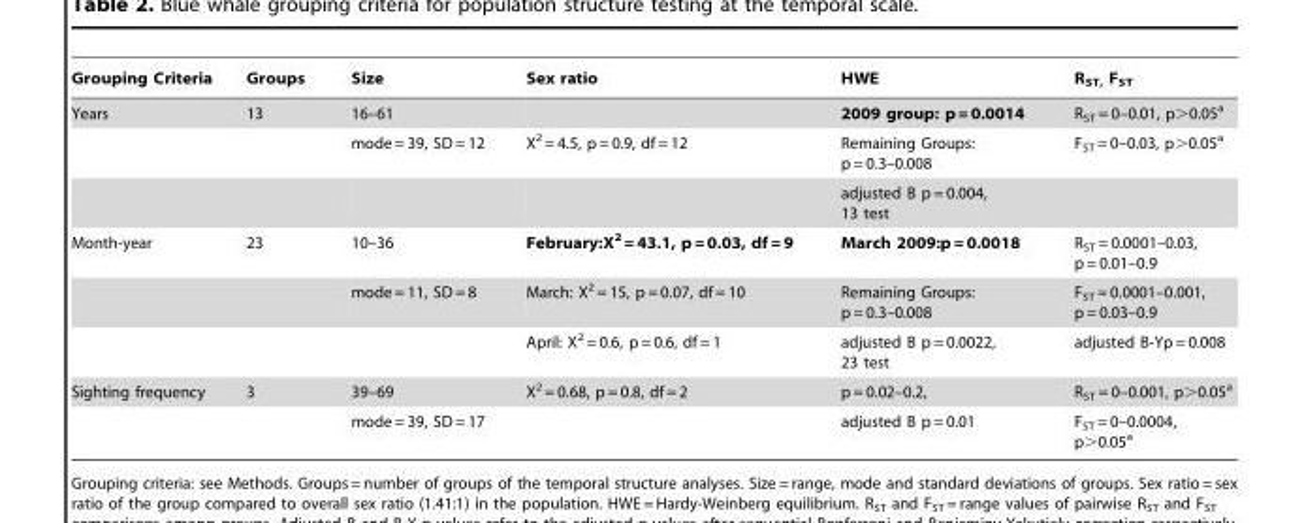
<table><thead><tr><td>Grouping Criteria</td><td>Groups</td><td>Size</td><td>Sex ratio</td><td>HWE</td><td>R<sub>ST,</sub> F<sub>ST</sub></td></tr></thead><tbody><tr><td rowspan="3">Years</td><td>13</td><td>16–61</td><td></td><td>2009 group: p = 0.0014</td><td>R<sub>ST</sub> = 0–0.01, p&gt;0.05<sup>a</sup></td></tr><tr><td></td><td>mode = 39, SD = 12</td><td>X<sup>2</sup> = 4.5, p = 0.9, df = 12</td><td>Remaining Groups: p = 0.3–0.008</td><td>F<sub>ST</sub> = 0–0.03, p&gt;0.05<sup>a</sup></td></tr><tr><td></td><td></td><td></td><td>adjusted B p = 0.004, 13 test</td><td></td></tr><tr><td rowspan="3">Month-year</td><td>23</td><td>10–36</td><td>February:X<sup>2</sup> = 43.1, p = 0.03, df = 9</td><td>March 2009:p = 0.0018</td><td>R<sub>ST</sub> = 0.0001–0.03, p = 0.01–0.9</td></tr><tr><td></td><td>mode = 11, SD = 8</td><td>March: X<sup>2</sup> = 15, p = 0.07, df = 10</td><td>Remaining Groups: p = 0.3–0.008</td><td>F<sub>ST</sub> = 0.0001–0.001, p = 0.03–0.9</td></tr><tr><td></td><td></td><td>April: X<sup>2</sup> = 0.6, p = 0.6, df = 1</td><td>adjusted B p = 0.0022, 23 test</td><td>adjusted B-Yp = 0.008</td></tr><tr><td rowspan="2">Sighting frequency</td><td>3</td><td>39–69</td><td>X<sup>2</sup> = 0.68, p = 0.8, df = 2</td><td>p = 0.02–0.2,</td><td>R<sub>ST</sub> = 0–0.001, p&gt;0.05<sup>a</sup></td></tr><tr><td></td><td>mode = 39, SD = 17</td><td></td><td>adjusted B p = 0.01</td><td>F<sub>ST</sub> = 0–0.0004, p&gt;0.05<sup>a</sup></td></tr></tbody></table>